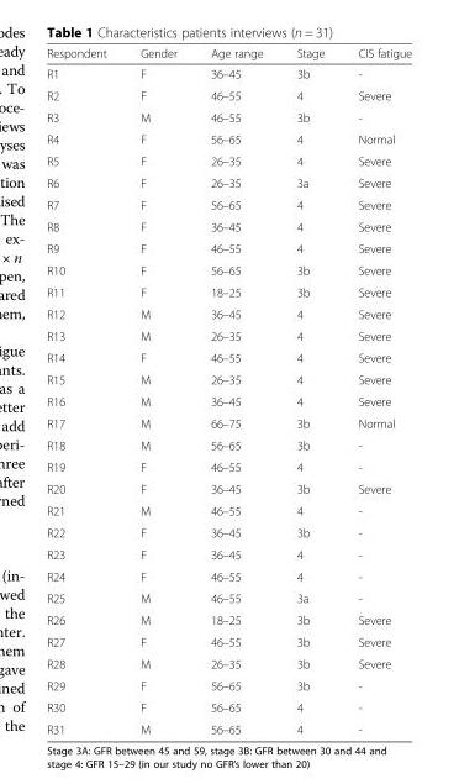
<table><thead><tr><td>Respondent</td><td>Gender</td><td>Age range</td><td>Stage</td><td>CIS fatigue</td></tr></thead><tbody><tr><td>R1</td><td>F</td><td>36–45</td><td>3b</td><td>-</td></tr><tr><td>R2</td><td>F</td><td>46–55</td><td>4</td><td>Severe</td></tr><tr><td>R3</td><td>M</td><td>46–55</td><td>3b</td><td>-</td></tr><tr><td>R4</td><td>F</td><td>56–65</td><td>4</td><td>Normal</td></tr><tr><td>R5</td><td>F</td><td>26–35</td><td>4</td><td>Severe</td></tr><tr><td>R6</td><td>F</td><td>26–35</td><td>3a</td><td>Severe</td></tr><tr><td>R7</td><td>F</td><td>56–65</td><td>4</td><td>Severe</td></tr><tr><td>R8</td><td>F</td><td>36–45</td><td>4</td><td>Severe</td></tr><tr><td>R9</td><td>F</td><td>46–55</td><td>4</td><td>Severe</td></tr><tr><td>R10</td><td>F</td><td>56–65</td><td>3b</td><td>Severe</td></tr><tr><td>R11</td><td>F</td><td>18–25</td><td>3b</td><td>Severe</td></tr><tr><td>R12</td><td>M</td><td>36–45</td><td>4</td><td>Severe</td></tr><tr><td>R13</td><td>M</td><td>26–35</td><td>4</td><td>Severe</td></tr><tr><td>R14</td><td>F</td><td>46–55</td><td>4</td><td>Severe</td></tr><tr><td>R15</td><td>M</td><td>26–35</td><td>4</td><td>Severe</td></tr><tr><td>R16</td><td>M</td><td>36–45</td><td>4</td><td>Severe</td></tr><tr><td>R17</td><td>M</td><td>66–75</td><td>3b</td><td>Normal</td></tr><tr><td>R18</td><td>M</td><td>56–65</td><td>3b</td><td>-</td></tr><tr><td>R19</td><td>F</td><td>46–55</td><td>4</td><td>-</td></tr><tr><td>R20</td><td>F</td><td>36–45</td><td>3b</td><td>Severe</td></tr><tr><td>R21</td><td>M</td><td>46–55</td><td>4</td><td>-</td></tr><tr><td>R22</td><td>F</td><td>36–45</td><td>3b</td><td>-</td></tr><tr><td>R23</td><td>F</td><td>36–45</td><td>4</td><td>-</td></tr><tr><td>R24</td><td>F</td><td>46–55</td><td>4</td><td>-</td></tr><tr><td>R25</td><td>M</td><td>46–55</td><td>3a</td><td>-</td></tr><tr><td>R26</td><td>M</td><td>18–25</td><td>3b</td><td>Severe</td></tr><tr><td>R27</td><td>F</td><td>46–55</td><td>3b</td><td>Severe</td></tr><tr><td>R28</td><td>M</td><td>26–35</td><td>3b</td><td>Severe</td></tr><tr><td>R29</td><td>F</td><td>56–65</td><td>3b</td><td>-</td></tr><tr><td>R30</td><td>F</td><td>56–65</td><td>4</td><td>-</td></tr><tr><td>R31</td><td>M</td><td>56–65</td><td>4</td><td>-</td></tr></tbody></table>